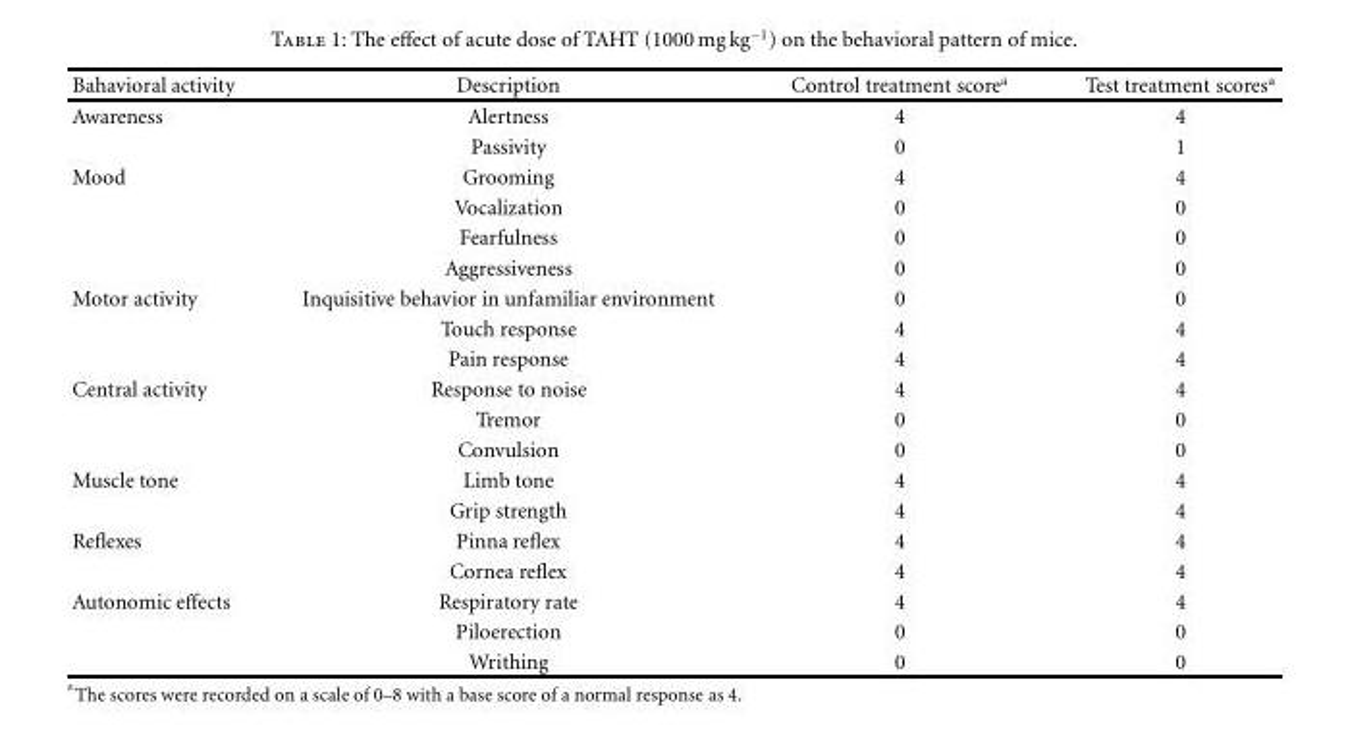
<table><thead><tr><td>Bahavioral activity</td><td>Description</td><td>Control treatment score<sup>a</sup></td><td>Test treatment scores<sup>a</sup></td></tr></thead><tbody><tr><td rowspan="2">Awareness</td><td>Alertness</td><td>4</td><td>4</td></tr><tr><td>Passivity</td><td>0</td><td>1</td></tr><tr><td rowspan="4">Mood</td><td>Grooming</td><td>4</td><td>4</td></tr><tr><td>Vocalization</td><td>0</td><td>0</td></tr><tr><td>Fearfulness</td><td>0</td><td>0</td></tr><tr><td>Aggressiveness</td><td>0</td><td>0</td></tr><tr><td rowspan="3">Motor activity</td><td>Inquisitive behavior in unfamiliar environment</td><td>0</td><td>0</td></tr><tr><td>Touch response</td><td>4</td><td>4</td></tr><tr><td>Pain response</td><td>4</td><td>4</td></tr><tr><td rowspan="3">Central activity</td><td>Response to noise</td><td>4</td><td>4</td></tr><tr><td>Tremor</td><td>0</td><td>0</td></tr><tr><td>Convulsion</td><td>0</td><td>0</td></tr><tr><td rowspan="2">Muscle tone</td><td>Limb tone</td><td>4</td><td>4</td></tr><tr><td>Grip strength</td><td>4</td><td>4</td></tr><tr><td rowspan="2">Reflexes</td><td>Pinna reflex</td><td>4</td><td>4</td></tr><tr><td>Cornea reflex</td><td>4</td><td>4</td></tr><tr><td rowspan="3">Autonomic effects</td><td>Respiratory rate</td><td>4</td><td>4</td></tr><tr><td>Piloerection</td><td>0</td><td>0</td></tr><tr><td>Writhing</td><td>0</td><td>0</td></tr></tbody></table>